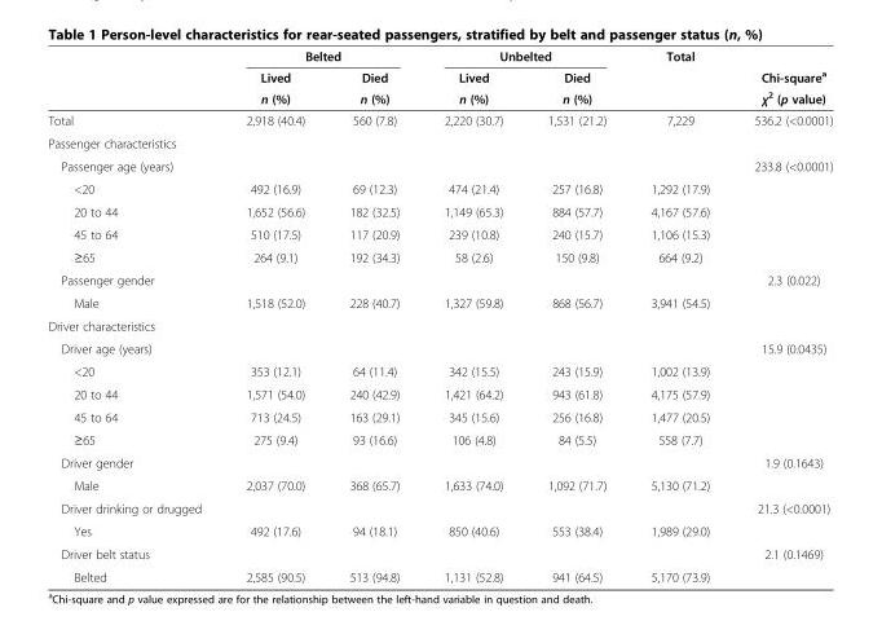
<table><thead><tr><td rowspan="3"></td><td colspan="2">Belted</td><td colspan="2">Unbelted</td><td rowspan="3">Total</td><td rowspan="3">Chi-square<sup>a</sup> χ<sup>2</sup> (p value)</td></tr><tr><td rowspan="2">Lived n (%)</td><td rowspan="2">Died n (%)</td><td rowspan="2">Lived n (%)</td><td rowspan="2">Died n (%)</td></tr><tr></tr></thead><tbody><tr><td>Total</td><td>2,918 (40.4)</td><td>560 (7.8)</td><td>2,220 (30.7)</td><td>1,531 (21.2)</td><td>7,229</td><td>536.2 (&lt;0.0001)</td></tr><tr><td colspan="7">Passenger characteristics</td></tr><tr><td>Passenger age (years)</td><td></td><td></td><td></td><td></td><td></td><td>233.8 (&lt;0.0001)</td></tr><tr><td>&lt;20</td><td>492 (16.9)</td><td>69 (12.3)</td><td>474 (21.4)</td><td>257 (16.8)</td><td>1,292 (17.9)</td><td></td></tr><tr><td>20 to 44</td><td>1,652 (56.6)</td><td>182 (32.5)</td><td>1,149 (65.3)</td><td>884 (57.7)</td><td>4,167 (57.6)</td><td></td></tr><tr><td>45 to 64</td><td>510 (17.5)</td><td>117 (20.9)</td><td>239 (10.8)</td><td>240 (15.7)</td><td>1,106 (15.3)</td><td></td></tr><tr><td>≥65</td><td>264 (9.1)</td><td>192 (34.3)</td><td>58 (2.6)</td><td>150 (9.8)</td><td>664 (9.2)</td><td></td></tr><tr><td>Passenger gender</td><td colspan="2"></td><td colspan="2"></td><td></td><td>2.3 (0.022)</td></tr><tr><td>Male</td><td>1,518 (52.0)</td><td>228 (40.7)</td><td>1,327 (59.8)</td><td>868 (56.7)</td><td>3,941 (54.5)</td><td></td></tr><tr><td colspan="7">Driver characteristics</td></tr><tr><td>Driver age (years)</td><td colspan="2"></td><td colspan="2"></td><td></td><td>15.9 (0.0435)</td></tr><tr><td>&lt;20</td><td>353 (12.1)</td><td>64 (11.4)</td><td>342 (15.5)</td><td>243 (15.9)</td><td>1,002 (13.9)</td><td></td></tr><tr><td>20 to 44</td><td>1,571 (54.0)</td><td>240 (42.9)</td><td>1,421 (64.2)</td><td>943 (61.8)</td><td>4,175 (57.9)</td><td></td></tr><tr><td>45 to 64</td><td>713 (24.5)</td><td>163 (29.1)</td><td>345 (15.6)</td><td>256 (16.8)</td><td>1,477 (20.5)</td><td></td></tr><tr><td>≥65</td><td>275 (9.4)</td><td>93 (16.6)</td><td>106 (4.8)</td><td>84 (5.5)</td><td>558 (7.7)</td><td></td></tr><tr><td>Driver gender</td><td></td><td></td><td></td><td></td><td></td><td>1.9 (0.1643)</td></tr><tr><td>Male</td><td>2,037 (70.0)</td><td>368 (65.7)</td><td>1,633 (74.0)</td><td>1,092 (71.7)</td><td>5,130 (71.2)</td><td></td></tr><tr><td>Driver drinking or drugged</td><td></td><td></td><td></td><td></td><td></td><td>21.3 (&lt;0.0001)</td></tr><tr><td>Yes</td><td>492 (17.6)</td><td>94 (18.1)</td><td>850 (40.6)</td><td>553 (38.4)</td><td>1,989 (29.0)</td><td></td></tr><tr><td>Driver belt status</td><td colspan="2"></td><td colspan="2"></td><td></td><td>2.1 (0.1469)</td></tr><tr><td>Belted</td><td>2,585 (90.5)</td><td>513 (94.8)</td><td>1,131 (52.8)</td><td>941 (64.5)</td><td>5,170 (73.9)</td><td></td></tr></tbody></table>